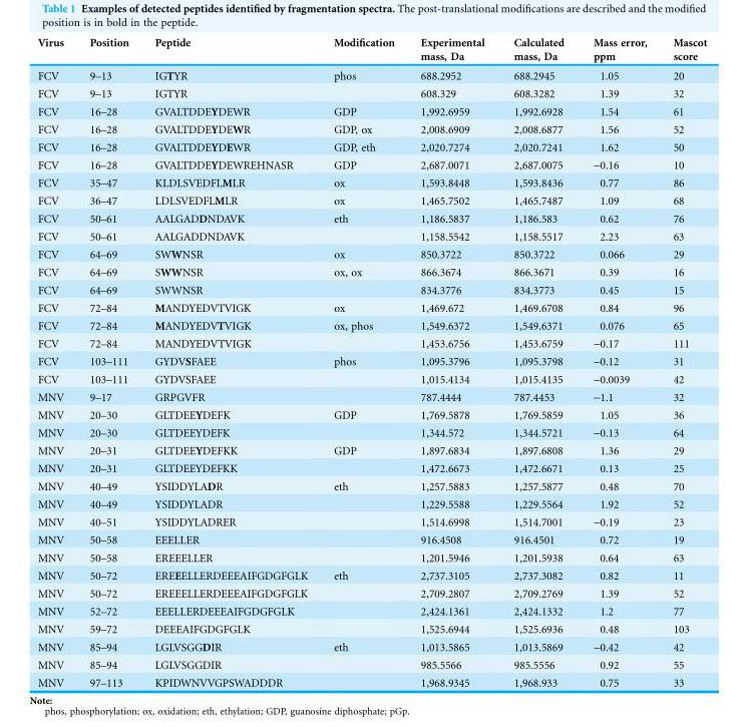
<table><thead><tr><td>Virus</td><td>Position</td><td>Peptide</td><td>Modification</td><td>Experimental mass, Da</td><td>Calculated mass, Da</td><td>Mass error, ppm</td><td>Mascot score</td></tr></thead><tbody><tr><td>FCV</td><td>9–13</td><td>IGTYR</td><td>phos</td><td>688.2952</td><td>688.2945</td><td>1.05</td><td>20</td></tr><tr><td>FCV</td><td>9–13</td><td>IGTYR</td><td></td><td>608.329</td><td>608.3282</td><td>1.39</td><td>32</td></tr><tr><td>FCV</td><td>16–28</td><td>GVALTDDEYDEWR</td><td>GDP</td><td>1,992.6959</td><td>1,992.6928</td><td>1.54</td><td>61</td></tr><tr><td>FCV</td><td>16–28</td><td>GVALTDDEYDEWR</td><td>GDP, ox</td><td>2,008.6909</td><td>2,008.6877</td><td>1.56</td><td>52</td></tr><tr><td>FCV</td><td>16–28</td><td>GVALTDDEYDEWR</td><td>GDP, eth</td><td>2,020.7274</td><td>2,020.7241</td><td>1.62</td><td>50</td></tr><tr><td>FCV</td><td>16–28</td><td>GVALTDDEYDEWREHNASR</td><td>GDP</td><td>2,687.0071</td><td>2,687.0075</td><td>-0.16</td><td>10</td></tr><tr><td>FCV</td><td>35–47</td><td>KLDLSVEDFLMLR</td><td>ox</td><td>1,593.8448</td><td>1,593.8436</td><td>0.77</td><td>86</td></tr><tr><td>FCV</td><td>36–47</td><td>LDLSVEDFLMLR</td><td>ox</td><td>1,465.7502</td><td>1,465.7487</td><td>1.09</td><td>68</td></tr><tr><td>FCV</td><td>50–61</td><td>AALGADDNDAVK</td><td>eth</td><td>1,186.5837</td><td>1,186.583</td><td>0.62</td><td>76</td></tr><tr><td>FCV</td><td>50–61</td><td>AALGADDNDAVK</td><td></td><td>1,158.5542</td><td>1,158.5517</td><td>2.23</td><td>63</td></tr><tr><td>FCV</td><td>64–69</td><td>SWWNSR</td><td>ox</td><td>850.3722</td><td>850.3722</td><td>0.066</td><td>29</td></tr><tr><td>FCV</td><td>64–69</td><td>SWWNSR</td><td>ox, ox</td><td>866.3674</td><td>866.3671</td><td>0.39</td><td>16</td></tr><tr><td>FCV</td><td>64–69</td><td>SWWNSR</td><td></td><td>834.3776</td><td>834.3773</td><td>0.45</td><td>15</td></tr><tr><td>FCV</td><td>72–84</td><td>MANDYEDVTVIGK</td><td>ox</td><td>1,469.672</td><td>1,469.6708</td><td>0.84</td><td>96</td></tr><tr><td>FCV</td><td>72–84</td><td>MANDYEDVTVIGK</td><td>ox, phos</td><td>1,549.6372</td><td>1,549.6371</td><td>0.076</td><td>65</td></tr><tr><td>FCV</td><td>72–84</td><td>MANDYEDVTVIGK</td><td></td><td>1,453.6756</td><td>1,453.6759</td><td>-0.17</td><td>111</td></tr><tr><td>FCV</td><td>103–111</td><td>GYDVSFAEE</td><td>phos</td><td>1,095.3796</td><td>1,095.3798</td><td>-0.12</td><td>31</td></tr><tr><td>FCV</td><td>103–111</td><td>GYDVSFAEE</td><td></td><td>1,015.4134</td><td>1,015.4135</td><td>-0.0039</td><td>42</td></tr><tr><td>MNV</td><td>9–17</td><td>GRPGVFR</td><td></td><td>787.4444</td><td>787.4453</td><td>-1.1</td><td>32</td></tr><tr><td>MNV</td><td>20–30</td><td>GLTDEEYDEFK</td><td>GDP</td><td>1,769.5878</td><td>1,769.5859</td><td>1.05</td><td>36</td></tr><tr><td>MNV</td><td>20–30</td><td>GLTDEEYDEFK</td><td></td><td>1,344.572</td><td>1,344.5721</td><td>-0.13</td><td>64</td></tr><tr><td>MNV</td><td>20–31</td><td>GLTDEEYDEFKK</td><td>GDP</td><td>1,897.6834</td><td>1,897.6808</td><td>1.36</td><td>29</td></tr><tr><td>MNV</td><td>20–31</td><td>GLTDEEYDEFKK</td><td></td><td>1,472.6673</td><td>1,472.6671</td><td>0.13</td><td>25</td></tr><tr><td>MNV</td><td>40–49</td><td>YSIDDYLADR</td><td>eth</td><td>1,257.5883</td><td>1,257.5877</td><td>0.48</td><td>70</td></tr><tr><td>MNV</td><td>40–49</td><td>YSIDDYLADR</td><td></td><td>1,229.5588</td><td>1,229.5564</td><td>1.92</td><td>52</td></tr><tr><td>MNV</td><td>40–51</td><td>YSIDDYLADRER</td><td></td><td>1,514.6998</td><td>1,514.7001</td><td>-0.19</td><td>23</td></tr><tr><td>MNV</td><td>50–58</td><td>EEELLER</td><td></td><td>916.4508</td><td>916.4501</td><td>0.72</td><td>19</td></tr><tr><td>MNV</td><td>50–58</td><td>EREEELLER</td><td></td><td>1,201.5946</td><td>1,201.5938</td><td>0.64</td><td>63</td></tr><tr><td>MNV</td><td>50–72</td><td>EREEELLERDEEEAIFGDGFGLK</td><td>eth</td><td>2,737.3105</td><td>2,737.3082</td><td>0.82</td><td>11</td></tr><tr><td>MNV</td><td>50–72</td><td>EREEELLERDEEEAIFGDGFGLK</td><td></td><td>2,709.2807</td><td>2,709.2769</td><td>1.39</td><td>52</td></tr><tr><td>MNV</td><td>52–72</td><td>EEELLERDEEEAIFGDGFGLK</td><td></td><td>2,424.1361</td><td>2,424.1332</td><td>1.2</td><td>77</td></tr><tr><td>MNV</td><td>59–72</td><td>DEEEAIFGDGFGLK</td><td></td><td>1,525.6944</td><td>1,525.6936</td><td>0.48</td><td>103</td></tr><tr><td>MNV</td><td>85–94</td><td>LGLVSGGDIR</td><td>eth</td><td>1,013.5865</td><td>1,013.5869</td><td>-0.42</td><td>42</td></tr><tr><td>MNV</td><td>85–94</td><td>LGLVSGGDIR</td><td></td><td>985.5566</td><td>985.5556</td><td>0.92</td><td>55</td></tr><tr><td>MNV</td><td>97–113</td><td>KPIDWNVVGPSWADDDR</td><td></td><td>1,968.9345</td><td>1,968.933</td><td>0.75</td><td>33</td></tr></tbody></table>